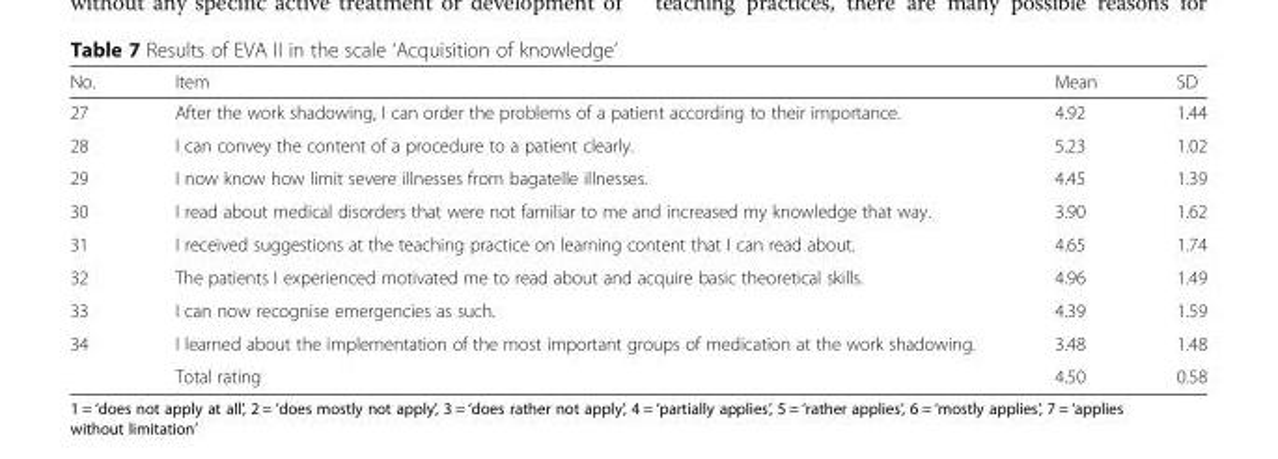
<table><thead><tr><td>No.</td><td>Item</td><td>Mean</td><td>SD</td></tr></thead><tbody><tr><td>27</td><td>After the work shadowing, I can order the problems of a patient according to their importance.</td><td>4.92</td><td>1.44</td></tr><tr><td>28</td><td>I can convey the content of a procedure to a patient clearly.</td><td>5.23</td><td>1.02</td></tr><tr><td>29</td><td>I now know how limit severe illnesses from bagatelle illnesses.</td><td>4.45</td><td>1.39</td></tr><tr><td>30</td><td>I read about medical disorders that were not familiar to me and increased my knowledge that way.</td><td>3.90</td><td>1.62</td></tr><tr><td>31</td><td>I received suggestions at the teaching practice on learning content that I can read about.</td><td>4.65</td><td>1.74</td></tr><tr><td>32</td><td>The patients I experienced motivated me to read about and acquire basic theoretical skills.</td><td>4.96</td><td>1.49</td></tr><tr><td>33</td><td>I can now recognise emergencies as such.</td><td>4.39</td><td>1.59</td></tr><tr><td rowspan="2">34</td><td>I learned about the implementation of the most important groups of medication at the work shadowing.</td><td>3.48</td><td>1.48</td></tr><tr><td>Total rating</td><td>4.50</td><td>0.58</td></tr></tbody></table>